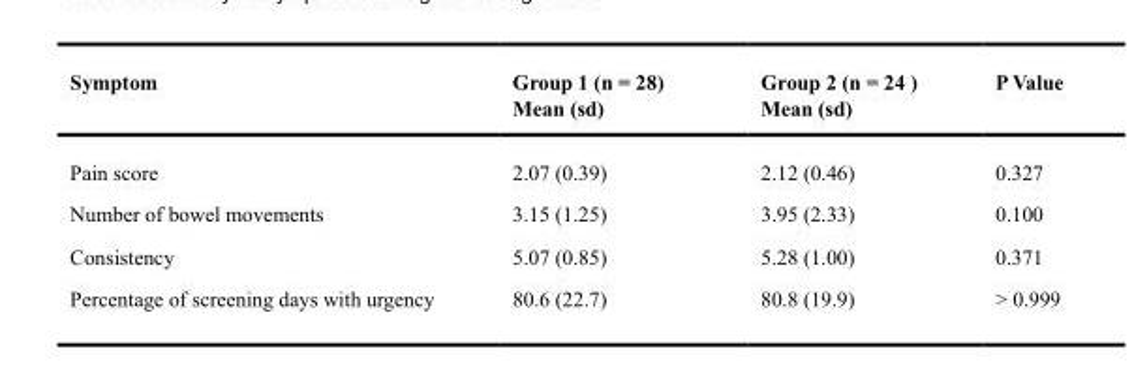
<table><thead><tr><td>Symptom</td><td>Group 1 (n = 28) Mean (sd)</td><td>Group 2 (n = 24 ) Mean (sd)</td><td>P Value</td></tr></thead><tbody><tr><td>Pain score</td><td>2.07 (0.39)</td><td>2.12 (0.46)</td><td>0.327</td></tr><tr><td>Number of bowel movements</td><td>3.15 (1.25)</td><td>3.95 (2.33)</td><td>0.100</td></tr><tr><td>Consistency</td><td>5.07 (0.85)</td><td>5.28 (1.00)</td><td>0.371</td></tr><tr><td>Percentage of screening days with urgency</td><td>80.6 (22.7)</td><td>80.8 (19.9)</td><td>&gt; 0.999</td></tr></tbody></table>